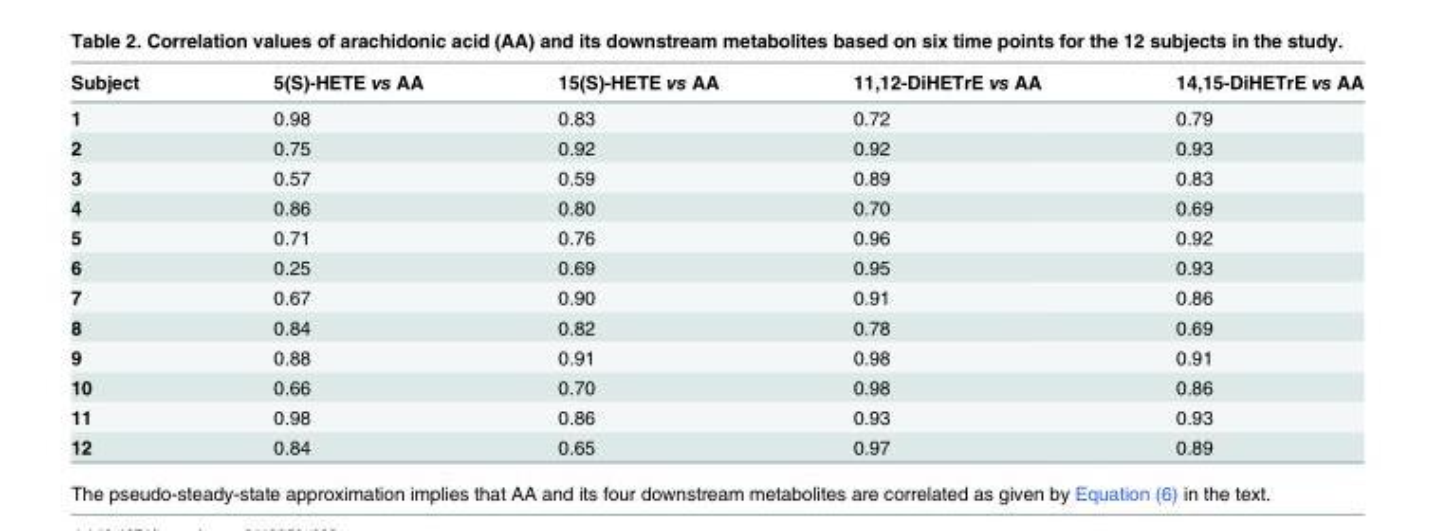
<table><thead><tr><td>Subject</td><td>5(S)-HETE vs AA</td><td>15(S)-HETE vs AA</td><td>11,12-DiHETrE vs AA</td><td>14,15-DiHETrE vs AA</td></tr></thead><tbody><tr><td>1</td><td>0.98</td><td>0.83</td><td>0.72</td><td>0.79</td></tr><tr><td>2</td><td>0.75</td><td>0.92</td><td>0.92</td><td>0.93</td></tr><tr><td>3</td><td>0.57</td><td>0.59</td><td>0.89</td><td>0.83</td></tr><tr><td>4</td><td>0.86</td><td>0.80</td><td>0.70</td><td>0.69</td></tr><tr><td>5</td><td>0.71</td><td>0.76</td><td>0.96</td><td>0.92</td></tr><tr><td>6</td><td>0.25</td><td>0.69</td><td>0.95</td><td>0.93</td></tr><tr><td>7</td><td>0.67</td><td>0.90</td><td>0.91</td><td>0.86</td></tr><tr><td>8</td><td>0.84</td><td>0.82</td><td>0.78</td><td>0.69</td></tr><tr><td>9</td><td>0.88</td><td>0.91</td><td>0.98</td><td>0.91</td></tr><tr><td>10</td><td>0.66</td><td>0.70</td><td>0.98</td><td>0.86</td></tr><tr><td>11</td><td>0.98</td><td>0.86</td><td>0.93</td><td>0.93</td></tr><tr><td>12</td><td>0.84</td><td>0.65</td><td>0.97</td><td>0.89</td></tr></tbody></table>